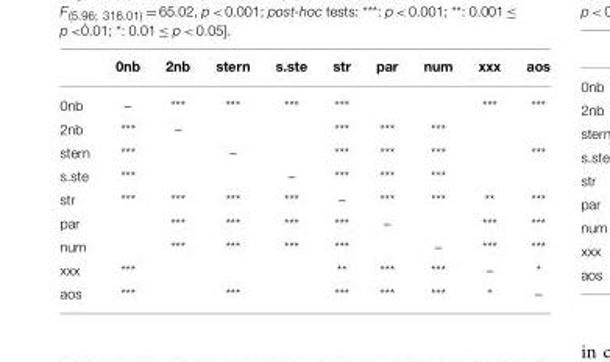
<table><thead><tr><td></td><td>0nb</td><td>2nb</td><td>stern</td><td>s.ste</td><td>str</td><td>par</td><td>num</td><td>xxx</td><td>aos</td></tr></thead><tbody><tr><td>0nb</td><td>–</td><td>***</td><td>***</td><td>***</td><td>***</td><td></td><td></td><td>***</td><td>***</td></tr><tr><td>2nb</td><td>***</td><td>–</td><td></td><td></td><td>***</td><td>***</td><td>***</td><td></td><td></td></tr><tr><td>stern</td><td>***</td><td></td><td>–</td><td></td><td>***</td><td>***</td><td>***</td><td></td><td>***</td></tr><tr><td>s.ste</td><td>***</td><td></td><td></td><td>–</td><td>***</td><td>***</td><td>***</td><td></td><td></td></tr><tr><td>str</td><td>***</td><td>***</td><td>***</td><td>***</td><td>–</td><td>***</td><td>***</td><td>**</td><td>***</td></tr><tr><td>par</td><td></td><td>***</td><td>***</td><td>***</td><td>***</td><td>–</td><td></td><td>***</td><td>***</td></tr><tr><td>num</td><td></td><td>***</td><td>***</td><td>***</td><td>***</td><td></td><td>–</td><td>***</td><td>***</td></tr><tr><td>xxx</td><td>***</td><td></td><td></td><td></td><td>**</td><td>***</td><td>***</td><td>–</td><td>*</td></tr><tr><td>aos</td><td>***</td><td></td><td>***</td><td></td><td>***</td><td>***</td><td>***</td><td>*</td><td>–</td></tr></tbody></table>